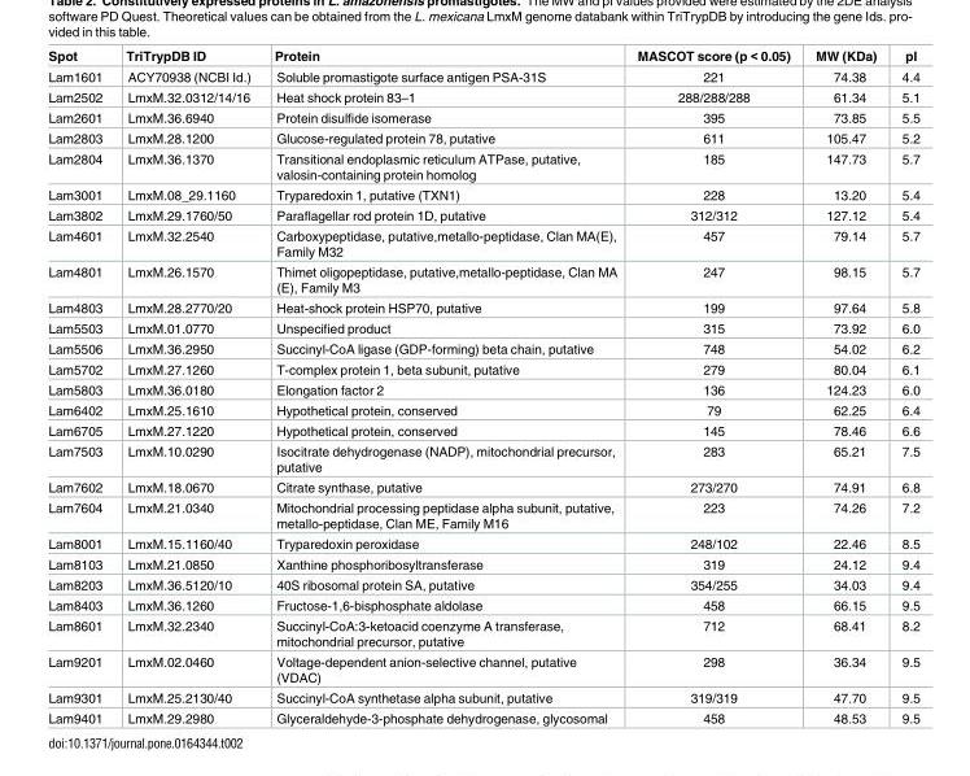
<table><thead><tr><td>Spot</td><td>TriTrypDB ID</td><td>Protein</td><td>MASCOT score (p &lt; 0.05)</td><td>MW (KDa)</td><td>pI</td></tr></thead><tbody><tr><td>Lam1601</td><td>ACY70938 (NCBI Id.)</td><td>Soluble promastigote surface antigen PSA-31S</td><td>221</td><td>74.38</td><td>4.4</td></tr><tr><td>Lam2502</td><td>LmxM.32.0312/14/16</td><td>Heat shock protein 83–1</td><td>288/288/288</td><td>61.34</td><td>5.1</td></tr><tr><td>Lam2601</td><td>LmxM.36.6940</td><td>Protein disulfide isomerase</td><td>395</td><td>73.85</td><td>5.5</td></tr><tr><td>Lam2803</td><td>LmxM.28.1200</td><td>Glucose-regulated protein 78, putative</td><td>611</td><td>105.47</td><td>5.2</td></tr><tr><td>Lam2804</td><td>LmxM.36.1370</td><td>Transitional endoplasmic reticulum ATPase, putative, valosin-containing protein homolog</td><td>185</td><td>147.73</td><td>5.7</td></tr><tr><td>Lam3001</td><td>LmxM.08_29.1160</td><td>Tryparedoxin 1, putative (TXN1)</td><td>228</td><td>13.20</td><td>5.4</td></tr><tr><td>Lam3802</td><td>LmxM.29.1760/50</td><td>Paraflagellar rod protein 1D, putative</td><td>312/312</td><td>127.12</td><td>5.4</td></tr><tr><td>Lam4601</td><td>LmxM.32.2540</td><td>Carboxypeptidase, putative,metallo-peptidase, Clan MA(E), Family M32</td><td>457</td><td>79.14</td><td>5.7</td></tr><tr><td>Lam4801</td><td>LmxM.26.1570</td><td>Thimet oligopeptidase, putative,metallo-peptidase, Clan MA (E), Family M3</td><td>247</td><td>98.15</td><td>5.7</td></tr><tr><td>Lam4803</td><td>LmxM.28.2770/20</td><td>Heat-shock protein HSP70, putative</td><td>199</td><td>97.64</td><td>5.8</td></tr><tr><td>Lam5503</td><td>LmxM.01.0770</td><td>Unspecified product</td><td>315</td><td>73.92</td><td>6.0</td></tr><tr><td>Lam5506</td><td>LmxM.36.2950</td><td>Succinyl-CoA ligase (GDP-forming) beta chain, putative</td><td>748</td><td>54.02</td><td>6.2</td></tr><tr><td>Lam5702</td><td>LmxM.27.1260</td><td>T-complex protein 1, beta subunit, putative</td><td>279</td><td>80.04</td><td>6.1</td></tr><tr><td>Lam5803</td><td>LmxM.36.0180</td><td>Elongation factor 2</td><td>136</td><td>124.23</td><td>6.0</td></tr><tr><td>Lam6402</td><td>LmxM.25.1610</td><td>Hypothetical protein, conserved</td><td>79</td><td>62.25</td><td>6.4</td></tr><tr><td>Lam6705</td><td>LmxM.27.1220</td><td>Hypothetical protein, conserved</td><td>145</td><td>78.46</td><td>6.6</td></tr><tr><td>Lam7503</td><td>LmxM.10.0290</td><td>Isocitrate dehydrogenase (NADP), mitochondrial precursor, putative</td><td>283</td><td>65.21</td><td>7.5</td></tr><tr><td>Lam7602</td><td>LmxM.18.0670</td><td>Citrate synthase, putative</td><td>273/270</td><td>74.91</td><td>6.8</td></tr><tr><td>Lam7604</td><td>LmxM.21.0340</td><td>Mitochondrial processing peptidase alpha subunit, putative, metallo-peptidase, Clan ME, Family M16</td><td>223</td><td>74.26</td><td>7.2</td></tr><tr><td>Lam8001</td><td>LmxM.15.1160/40</td><td>Tryparedoxin peroxidase</td><td>248/102</td><td>22.46</td><td>8.5</td></tr><tr><td>Lam8103</td><td>LmxM.21.0850</td><td>Xanthine phosphoribosyltransferase</td><td>319</td><td>24.12</td><td>9.4</td></tr><tr><td>Lam8203</td><td>LmxM.36.5120/10</td><td>40S ribosomal protein SA, putative</td><td>354/255</td><td>34.03</td><td>9.4</td></tr><tr><td>Lam8403</td><td>LmxM.36.1260</td><td>Fructose-1,6-bisphosphate aldolase</td><td>458</td><td>66.15</td><td>9.5</td></tr><tr><td>Lam8601</td><td>LmxM.32.2340</td><td>Succinyl-CoA:3-ketoacid coenzyme A transferase, mitochondrial precursor, putative</td><td>712</td><td>68.41</td><td>8.2</td></tr><tr><td>Lam9201</td><td>LmxM.02.0460</td><td>Voltage-dependent anion-selective channel, putative (VDAC)</td><td>298</td><td>36.34</td><td>9.5</td></tr><tr><td>Lam9301</td><td>LmxM.25.2130/40</td><td>Succinyl-CoA synthetase alpha subunit, putative</td><td>319/319</td><td>47.70</td><td>9.5</td></tr><tr><td>Lam9401</td><td>LmxM.29.2980</td><td>Glyceraldehyde-3-phosphate dehydrogenase, glycosomal</td><td>458</td><td>48.53</td><td>9.5</td></tr></tbody></table>